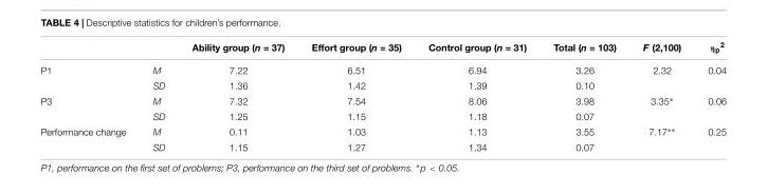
<table><thead><tr><td></td><td></td><td>Ability group (n = 37)</td><td>Effort group (n = 35)</td><td>Control group (n = 31)</td><td>Total (n = 103)</td><td>F (2,100)</td><td>η<sub>p</sub><sup>2</sup></td></tr></thead><tbody><tr><td rowspan="2">P1</td><td>M</td><td>7.22</td><td>6.51</td><td>6.94</td><td>3.26</td><td>2.32</td><td>0.04</td></tr><tr><td>SD</td><td>1.36</td><td>1.42</td><td>1.39</td><td>0.10</td><td></td><td></td></tr><tr><td rowspan="2">P3</td><td>M</td><td>7.32</td><td>7.54</td><td>8.06</td><td>3.98</td><td>3.35∗</td><td>0.06</td></tr><tr><td>SD</td><td>1.25</td><td>1.15</td><td>1.18</td><td>0.07</td><td></td><td></td></tr><tr><td rowspan="2">Performance change</td><td>M</td><td>0.11</td><td>1.03</td><td>1.13</td><td>3.55</td><td>7.17∗∗</td><td>0.25</td></tr><tr><td>SD</td><td>1.15</td><td>1.27</td><td>1.34</td><td>0.07</td><td></td><td></td></tr></tbody></table>